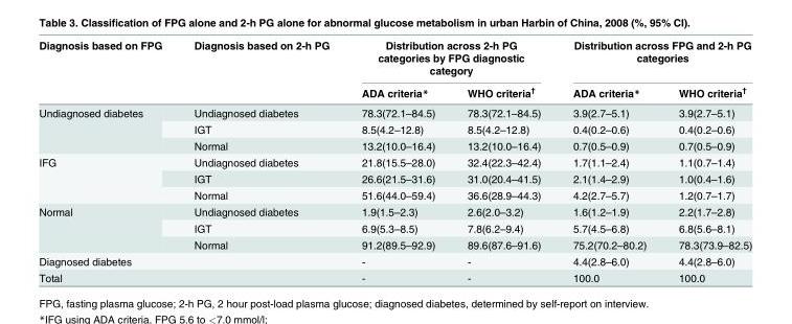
<table><thead><tr><td rowspan="2">Diagnosis based on FPG</td><td rowspan="2">Diagnosis based on 2-h PG</td><td colspan="2">Distribution across 2-h PG categories by FPG diagnostic category</td><td colspan="2">Distribution across FPG and 2-h PG categories</td></tr><tr><td>ADA criteria*</td><td>WHO criteria<sup>†</sup></td><td>ADA criteria*</td><td>WHO criteria<sup>†</sup></td></tr></thead><tbody><tr><td rowspan="3">Undiagnosed diabetes</td><td>Undiagnosed diabetes</td><td>78.3(72.1–84.5)</td><td>78.3(72.1–84.5)</td><td>3.9(2.7–5.1)</td><td>3.9(2.7–5.1)</td></tr><tr><td>IGT</td><td>8.5(4.2–12.8)</td><td>8.5(4.2–12.8)</td><td>0.4(0.2–0.6)</td><td>0.4(0.2–0.6)</td></tr><tr><td>Normal</td><td>13.2(10.0–16.4)</td><td>13.2(10.0–16.4)</td><td>0.7(0.5–0.9)</td><td>0.7(0.5–0.9)</td></tr><tr><td rowspan="3">IFG</td><td>Undiagnosed diabetes</td><td>21.8(15.5–28.0)</td><td>32.4(22.3–42.4)</td><td>1.7(1.1–2.4)</td><td>1.1(0.7–1.4)</td></tr><tr><td>IGT</td><td>26.6(21.5–31.6)</td><td>31.0(20.4–41.5)</td><td>2.1(1.4–2.9)</td><td>1.0(0.4–1.6)</td></tr><tr><td>Normal</td><td>51.6(44.0–59.4)</td><td>36.6(28.9–44.3)</td><td>4.2(2.7–5.7)</td><td>1.2(0.7–1.7)</td></tr><tr><td rowspan="3">Normal</td><td>Undiagnosed diabetes</td><td>1.9(1.5–2.3)</td><td>2.6(2.0–3.2)</td><td>1.6(1.2–1.9)</td><td>2.2(1.7–2.8)</td></tr><tr><td>IGT</td><td>6.9(5.3–8.5)</td><td>7.8(6.2–9.4)</td><td>5.7(4.5–6.8)</td><td>6.8(5.6–8.1)</td></tr><tr><td>Normal</td><td>91.2(89.5–92.9)</td><td>89.6(87.6–91.6)</td><td>75.2(70.2–80.2)</td><td>78.3(73.9–82.5)</td></tr><tr><td colspan="2">Diagnosed diabetes</td><td>-</td><td>-</td><td>4.4(2.8–6.0)</td><td>4.4(2.8–6.0)</td></tr><tr><td colspan="2">Total</td><td>-</td><td>-</td><td>100.0</td><td>100.0</td></tr></tbody></table>